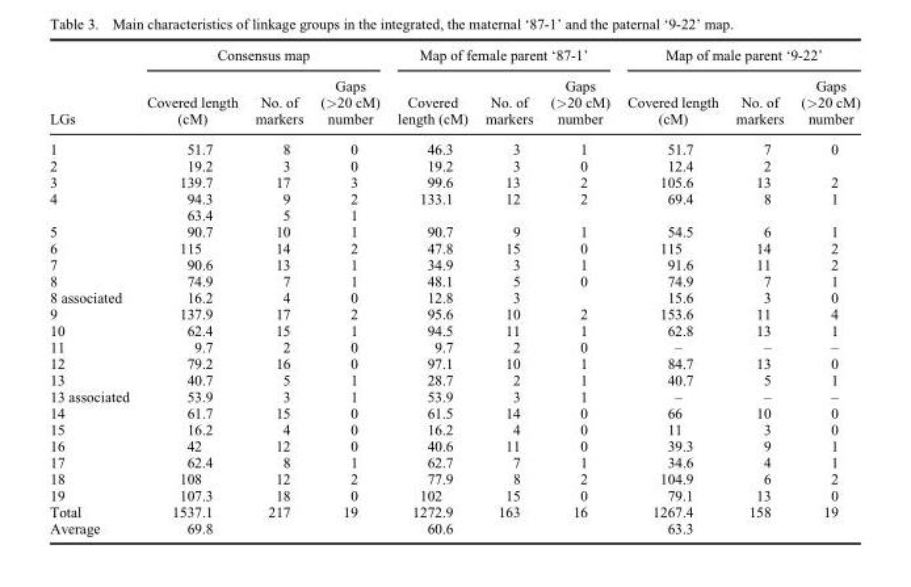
<table><thead><tr><td rowspan="2">LGs</td><td colspan="3">Consensus map</td><td colspan="3">Map of female parent ‘87-1’</td><td colspan="3">Map of male parent ‘9-22’</td></tr><tr><td>Covered length (cM)</td><td>No. of markers</td><td>Gaps (&gt;20 cM) number</td><td>Covered length (cM)</td><td>No. of markers</td><td>Gaps (&gt;20 cM) number</td><td>Covered length (cM)</td><td>No. of markers</td><td>Gaps (&gt;20 cM) number</td></tr></thead><tbody><tr><td>1</td><td>51.7</td><td>8</td><td>0</td><td>46.3</td><td>3</td><td>1</td><td>51.7</td><td>7</td><td>0</td></tr><tr><td>2</td><td>19.2</td><td>3</td><td>0</td><td>19.2</td><td>3</td><td>0</td><td>12.4</td><td>2</td><td></td></tr><tr><td>3</td><td>139.7</td><td>17</td><td>3</td><td>99.6</td><td>13</td><td>2</td><td>105.6</td><td>13</td><td>2</td></tr><tr><td rowspan="2">4</td><td>94.3</td><td>9</td><td>2</td><td>133.1</td><td>12</td><td>2</td><td>69.4</td><td>8</td><td>1</td></tr><tr><td>63.4</td><td>5</td><td>1</td><td></td><td></td><td></td><td></td><td></td><td></td></tr><tr><td>5</td><td>90.7</td><td>10</td><td>1</td><td>90.7</td><td>9</td><td>1</td><td>54.5</td><td>6</td><td>1</td></tr><tr><td>6</td><td>115</td><td>14</td><td>2</td><td>47.8</td><td>15</td><td>0</td><td>115</td><td>14</td><td>2</td></tr><tr><td>7</td><td>90.6</td><td>13</td><td>1</td><td>34.9</td><td>3</td><td>1</td><td>91.6</td><td>11</td><td>2</td></tr><tr><td>8</td><td>74.9</td><td>7</td><td>1</td><td>48.1</td><td>5</td><td>0</td><td>74.9</td><td>7</td><td>1</td></tr><tr><td>8 associated</td><td>16.2</td><td>4</td><td>0</td><td>12.8</td><td>3</td><td></td><td>15.6</td><td>3</td><td>0</td></tr><tr><td>9</td><td>137.9</td><td>17</td><td>2</td><td>95.6</td><td>10</td><td>2</td><td>153.6</td><td>11</td><td>4</td></tr><tr><td>10</td><td>62.4</td><td>15</td><td>1</td><td>94.5</td><td>11</td><td>1</td><td>62.8</td><td>13</td><td>1</td></tr><tr><td>11</td><td>9.7</td><td>2</td><td>0</td><td>9.7</td><td>2</td><td>0</td><td>–</td><td>–</td><td>–</td></tr><tr><td>12</td><td>79.2</td><td>16</td><td>0</td><td>97.1</td><td>10</td><td>1</td><td>84.7</td><td>13</td><td>0</td></tr><tr><td>13</td><td>40.7</td><td>5</td><td>1</td><td>28.7</td><td>2</td><td>1</td><td>40.7</td><td>5</td><td>1</td></tr><tr><td>13 associated</td><td>53.9</td><td>3</td><td>1</td><td>53.9</td><td>3</td><td>1</td><td>–</td><td>–</td><td>–</td></tr><tr><td>14</td><td>61.7</td><td>15</td><td>0</td><td>61.5</td><td>14</td><td>0</td><td>66</td><td>10</td><td>0</td></tr><tr><td>15</td><td>16.2</td><td>4</td><td>0</td><td>16.2</td><td>4</td><td>0</td><td>11</td><td>3</td><td>0</td></tr><tr><td>16</td><td>42</td><td>12</td><td>0</td><td>40.6</td><td>11</td><td>0</td><td>39.3</td><td>9</td><td>1</td></tr><tr><td>17</td><td>62.4</td><td>8</td><td>1</td><td>62.7</td><td>7</td><td>1</td><td>34.6</td><td>4</td><td>1</td></tr><tr><td>18</td><td>108</td><td>12</td><td>2</td><td>77.9</td><td>8</td><td>2</td><td>104.9</td><td>6</td><td>2</td></tr><tr><td>19</td><td>107.3</td><td>18</td><td>0</td><td>102</td><td>15</td><td>0</td><td>79.1</td><td>13</td><td>0</td></tr><tr><td>Total</td><td>1537.1</td><td>217</td><td>19</td><td>1272.9</td><td>163</td><td>16</td><td>1267.4</td><td>158</td><td>19</td></tr><tr><td>Average</td><td>69.8</td><td></td><td></td><td>60.6</td><td></td><td></td><td>63.3</td><td></td><td></td></tr></tbody></table>